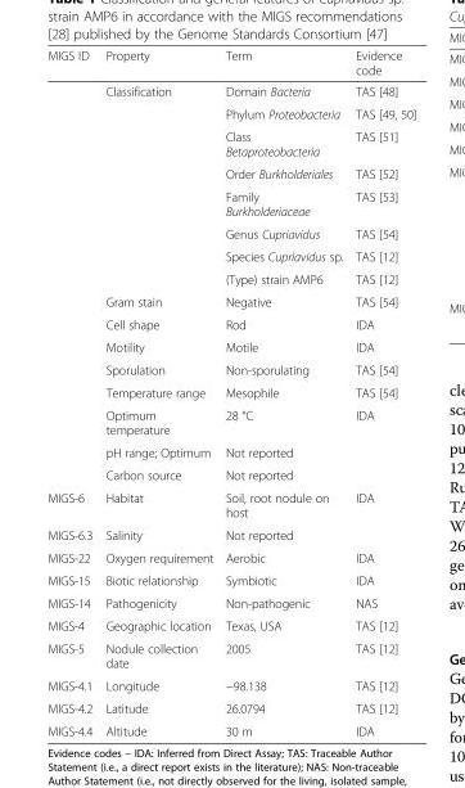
<table><thead><tr><td>MIGS ID</td><td>Property</td><td>Term</td><td>Evidence code</td></tr></thead><tbody><tr><td></td><td>Classification</td><td>Domain Bacteria</td><td>TAS [48]</td></tr><tr><td></td><td></td><td>Phylum Proteobacteria</td><td>TAS [49, 50]</td></tr><tr><td></td><td></td><td>Class Betaproteobacteria</td><td>TAS [51]</td></tr><tr><td></td><td></td><td>Order Burkholderiales</td><td>TAS [52]</td></tr><tr><td></td><td></td><td>Family Burkholderiaceae</td><td>TAS [53]</td></tr><tr><td></td><td></td><td>Genus Cupriavidus</td><td>TAS [54]</td></tr><tr><td></td><td></td><td>Species Cupriavidus sp.</td><td>TAS [12]</td></tr><tr><td></td><td></td><td>(Type) strain AMP6</td><td>TAS [12]</td></tr><tr><td></td><td>Gram stain</td><td>Negative</td><td>TAS [54]</td></tr><tr><td></td><td>Cell shape</td><td>Rod</td><td>IDA</td></tr><tr><td></td><td>Motility</td><td>Motile</td><td>IDA</td></tr><tr><td></td><td>Sporulation</td><td>Non-sporulating</td><td>TAS [54]</td></tr><tr><td></td><td>Temperature range</td><td>Mesophile</td><td>TAS [54]</td></tr><tr><td></td><td>Optimum temperature</td><td>28 °C</td><td>IDA</td></tr><tr><td></td><td>pH range; Optimum</td><td>Not reported</td><td></td></tr><tr><td></td><td>Carbon source</td><td>Not reported</td><td></td></tr><tr><td>MIGS-6</td><td>Habitat</td><td>Soil, root nodule on host</td><td>IDA</td></tr><tr><td>MIGS-6.3</td><td>Salinity</td><td>Not reported</td><td></td></tr><tr><td>MIGS-22</td><td>Oxygen requirement</td><td>Aerobic</td><td>IDA</td></tr><tr><td>MIGS-15</td><td>Biotic relationship</td><td>Symbiotic</td><td>IDA</td></tr><tr><td>MIGS-14</td><td>Pathogenicity</td><td>Non-pathogenic</td><td>NAS</td></tr><tr><td>MIGS-4</td><td>Geographic location</td><td>Texas, USA</td><td>TAS [12]</td></tr><tr><td>MIGS-5</td><td>Nodule collection date</td><td>2005</td><td>TAS [12]</td></tr><tr><td>MIGS-4.1</td><td>Longitude</td><td>−98.138</td><td>TAS [12]</td></tr><tr><td>MIGS-4.2</td><td>Latitude</td><td>26.0794</td><td>TAS [12]</td></tr><tr><td>MIGS-4.4</td><td>Altitude</td><td>30 m</td><td>IDA</td></tr></tbody></table>